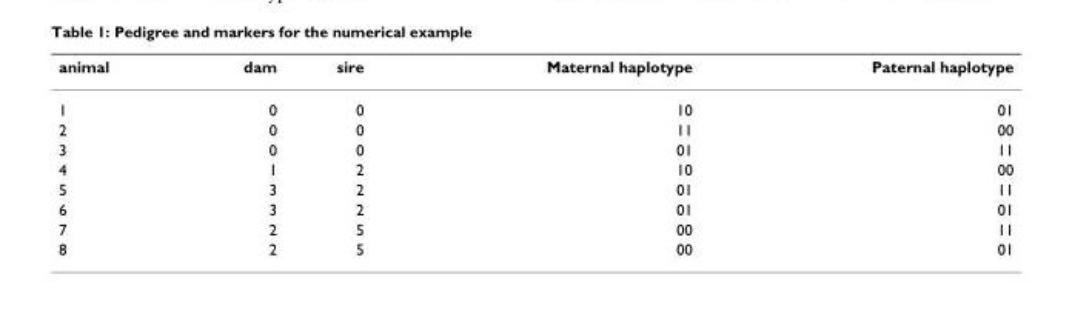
<table><thead><tr><td>animal</td><td>dam</td><td>sire</td><td>Maternal haplotype</td><td>Paternal haplotype</td></tr></thead><tbody><tr><td>1</td><td>0</td><td>0</td><td>10</td><td>01</td></tr><tr><td>2</td><td>0</td><td>0</td><td>11</td><td>00</td></tr><tr><td>3</td><td>0</td><td>0</td><td>01</td><td>11</td></tr><tr><td>4</td><td>1</td><td>2</td><td>10</td><td>00</td></tr><tr><td>5</td><td>3</td><td>2</td><td>01</td><td>11</td></tr><tr><td>6</td><td>3</td><td>2</td><td>01</td><td>01</td></tr><tr><td>7</td><td>2</td><td>5</td><td>00</td><td>11</td></tr><tr><td>8</td><td>2</td><td>5</td><td>00</td><td>01</td></tr></tbody></table>